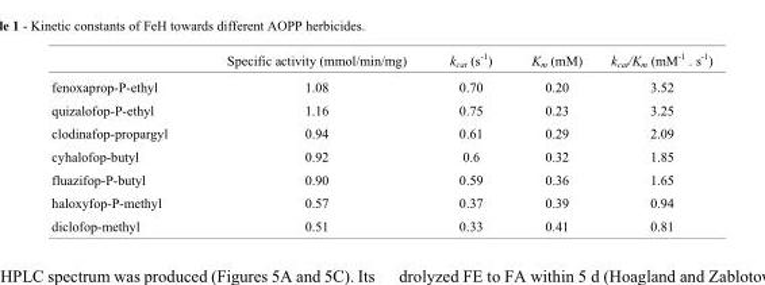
<table><thead><tr><td></td><td>Specific activity (mmol/min/mg)</td><td>k<sub>cat</sub> (s<sup>-1</sup>)</td><td>K<sub>m</sub> (mM)</td><td>k<sub>cat</sub>/K<sub>m</sub> (mM<sup>-1</sup> . s<sup>-1</sup>)</td></tr></thead><tbody><tr><td>fenoxaprop-P-ethyl</td><td>1.08</td><td>0.70</td><td>0.20</td><td>3.52</td></tr><tr><td>quizalofop-P-ethyl</td><td>1.16</td><td>0.75</td><td>0.23</td><td>3.25</td></tr><tr><td>clodinafop-propargyl</td><td>0.94</td><td>0.61</td><td>0.29</td><td>2.09</td></tr><tr><td>cyhalofop-butyl</td><td>0.92</td><td>0.6</td><td>0.32</td><td>1.85</td></tr><tr><td>fluazifop-P-butyl</td><td>0.90</td><td>0.59</td><td>0.36</td><td>1.65</td></tr><tr><td>haloxyfop-P-methyl</td><td>0.57</td><td>0.37</td><td>0.39</td><td>0.94</td></tr><tr><td>diclofop-methyl</td><td>0.51</td><td>0.33</td><td>0.41</td><td>0.81</td></tr></tbody></table>